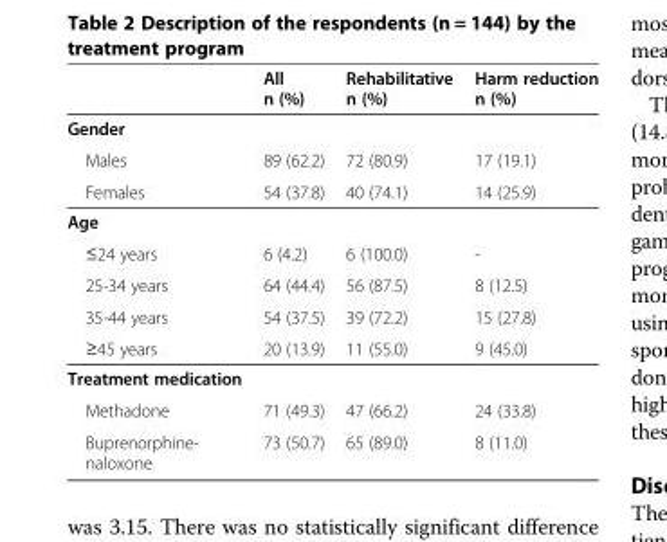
<table><thead><tr><td></td><td>All n (%)</td><td>Rehabilitative n (%)</td><td>Harm reduction n (%)</td></tr></thead><tbody><tr><td colspan="4">Gender</td></tr><tr><td>Males</td><td>89 (62.2)</td><td>72 (80.9)</td><td>17 (19.1)</td></tr><tr><td>Females</td><td>54 (37.8)</td><td>40 (74.1)</td><td>14 (25.9)</td></tr><tr><td colspan="4">Age</td></tr><tr><td>≤24 years</td><td>6 (4.2)</td><td>6 (100.0)</td><td>-</td></tr><tr><td>25-34 years</td><td>64 (44.4)</td><td>56 (87.5)</td><td>8 (12.5)</td></tr><tr><td>35-44 years</td><td>54 (37.5)</td><td>39 (72.2)</td><td>15 (27.8)</td></tr><tr><td>≥45 years</td><td>20 (13.9)</td><td>11 (55.0)</td><td>9 (45.0)</td></tr><tr><td colspan="4">Treatment medication</td></tr><tr><td>Methadone</td><td>71 (49.3)</td><td>47 (66.2)</td><td>24 (33.8)</td></tr><tr><td>Buprenorphine- naloxone</td><td>73 (50.7)</td><td>65 (89.0)</td><td>8 (11.0)</td></tr></tbody></table>